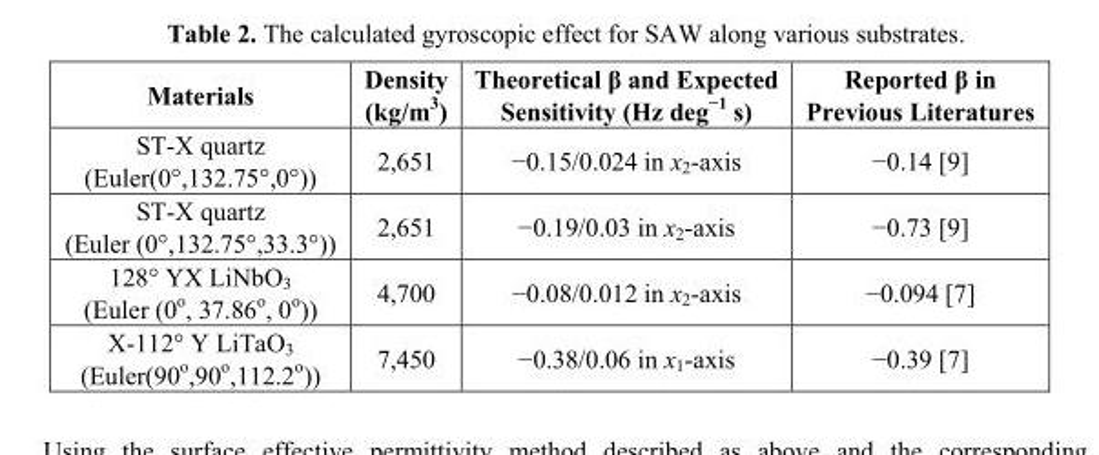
<table><thead><tr><td>Materials</td><td>Density (kg/m<sup>3</sup>)</td><td>Theoretical β and Expected Sensitivity (Hz deg<sup>−1</sup> s)</td><td>Reported β in Previous Literatures</td></tr></thead><tbody><tr><td>ST-X quartz (Euler(0°,132.75°,0°))</td><td>2,651</td><td>−0.15/0.024 in x<sub>2</sub>-axis</td><td>−0.14 [9]</td></tr><tr><td>ST-X quartz (Euler (0°,132.75°,33.3°))</td><td>2,651</td><td>−0.19/0.03 in x<sub>2</sub>-axis</td><td>−0.73 [9]</td></tr><tr><td>128° YX LiNbO<sub>3</sub> (Euler (0°, 37.86°, 0°))</td><td>4,700</td><td>−0.08/0.012 in x<sub>2</sub>-axis</td><td>−0.094 [7]</td></tr><tr><td>X-112° Y LiTaO<sub>3</sub> (Euler(90°,90°,112.2°))</td><td>7,450</td><td>−0.38/0.06 in x<sub>1</sub>-axis</td><td>−0.39 [7]</td></tr></tbody></table>